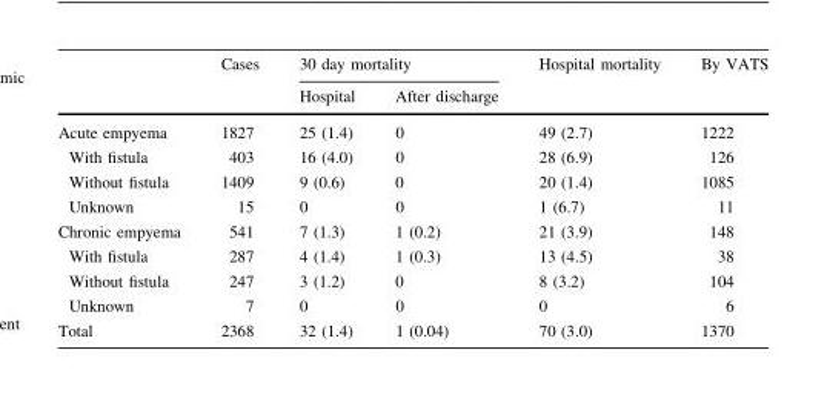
<table><thead><tr><td rowspan="2"></td><td rowspan="2">Cases</td><td colspan="2">30 day mortality</td><td rowspan="2">Hospital mortality</td><td rowspan="2">By VATS</td></tr><tr><td>Hospital</td><td>After discharge</td></tr></thead><tbody><tr><td>Acute empyema</td><td>1827</td><td>25 (1.4)</td><td>0</td><td>49 (2.7)</td><td>1222</td></tr><tr><td>With fistula</td><td>403</td><td>16 (4.0)</td><td>0</td><td>28 (6.9)</td><td>126</td></tr><tr><td>Without fistula</td><td>1409</td><td>9 (0.6)</td><td>0</td><td>20 (1.4)</td><td>1085</td></tr><tr><td>Unknown</td><td>15</td><td>0</td><td>0</td><td>1 (6.7)</td><td>11</td></tr><tr><td>Chronic empyema</td><td>541</td><td>7 (1.3)</td><td>1 (0.2)</td><td>21 (3.9)</td><td>148</td></tr><tr><td>With fistula</td><td>287</td><td>4 (1.4)</td><td>1 (0.3)</td><td>13 (4.5)</td><td>38</td></tr><tr><td>Without fistula</td><td>247</td><td>3 (1.2)</td><td>0</td><td>8 (3.2)</td><td>104</td></tr><tr><td>Unknown</td><td>7</td><td>0</td><td>0</td><td>0</td><td>6</td></tr><tr><td>Total</td><td>2368</td><td>32 (1.4)</td><td>1 (0.04)</td><td>70 (3.0)</td><td>1370</td></tr></tbody></table>